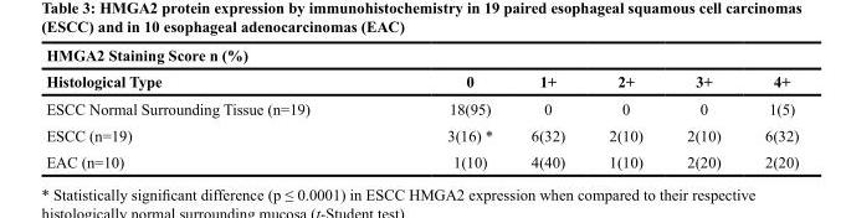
<table><thead><tr><td colspan="6">HMGA2 Staining Score n (%)</td></tr><tr><td>Histological Type</td><td>0</td><td>1+</td><td>2+</td><td>3+</td><td>4+</td></tr></thead><tbody><tr><td>ESCC Normal Surrounding Tissue (n=19)</td><td>18(95)</td><td>0</td><td>0</td><td>0</td><td>1(5)</td></tr><tr><td>ESCC (n=19)</td><td>3(16) *</td><td>6(32)</td><td>2(10)</td><td>2(10)</td><td>6(32)</td></tr><tr><td>EAC (n=10)</td><td>1(10)</td><td>4(40)</td><td>1(10)</td><td>2(20)</td><td>2(20)</td></tr></tbody></table>